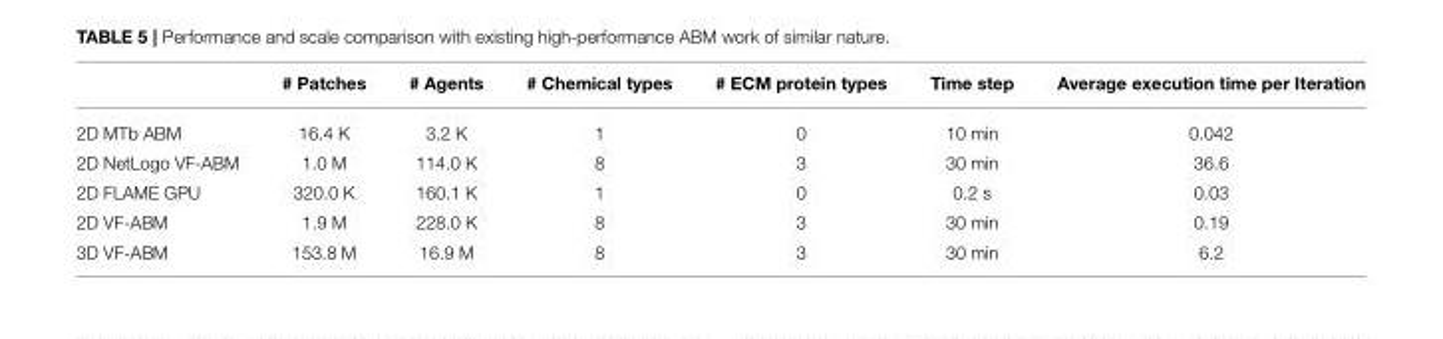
<table><thead><tr><td></td><td># Patches</td><td># Agents</td><td># Chemical types</td><td># ECM protein types</td><td>Time step</td><td>Average execution time per Iteration</td></tr></thead><tbody><tr><td>2D MTb ABM</td><td>16.4 K</td><td>3.2 K</td><td>1</td><td>0</td><td>10 min</td><td>0.042</td></tr><tr><td>2D NetLogo VF-ABM</td><td>1.0 M</td><td>114.0 K</td><td>8</td><td>3</td><td>30 min</td><td>36.6</td></tr><tr><td>2D FLAME GPU</td><td>320.0 K</td><td>160.1 K</td><td>1</td><td>0</td><td>0.2 s</td><td>0.03</td></tr><tr><td>2D VF-ABM</td><td>1.9 M</td><td>228.0 K</td><td>8</td><td>3</td><td>30 min</td><td>0.19</td></tr><tr><td>3D VF-ABM</td><td>153.8 M</td><td>16.9 M</td><td>8</td><td>3</td><td>30 min</td><td>6.2</td></tr></tbody></table>